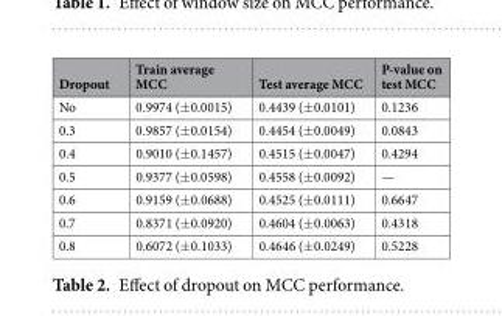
<table><thead><tr><td>Dropout</td><td>Train average MCC</td><td>Test average MCC</td><td>P-value on test MCC</td></tr></thead><tbody><tr><td>No</td><td>0.9974 (±0.0015)</td><td>0.4439 (±0.0101)</td><td>0.1236</td></tr><tr><td>0.3</td><td>0.9857 (±0.0154)</td><td>0.4454 (±0.0049)</td><td>0.0843</td></tr><tr><td>0.4</td><td>0.9010 (±0.1457)</td><td>0.4515 (±0.0047)</td><td>0.4294</td></tr><tr><td>0.5</td><td>0.9377 (±0.0598)</td><td>0.4558 (±0.0092)</td><td>—</td></tr><tr><td>0.6</td><td>0.9159 (±0.0688)</td><td>0.4525 (±0.0111)</td><td>0.6647</td></tr><tr><td>0.7</td><td>0.8371 (±0.0920)</td><td>0.4604 (±0.0063)</td><td>0.4318</td></tr><tr><td>0.8</td><td>0.6072 (±0.1033)</td><td>0.4646 (±0.0249)</td><td>0.5228</td></tr></tbody></table>